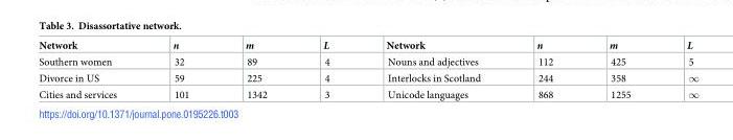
<table><thead><tr><td>Network</td><td>n</td><td>m</td><td>L</td><td>Network</td><td>n</td><td>m</td><td>L</td></tr></thead><tbody><tr><td>Southern women</td><td>32</td><td>89</td><td>4</td><td>Nouns and adjectives</td><td>112</td><td>425</td><td>5</td></tr><tr><td>Divorce in US</td><td>59</td><td>225</td><td>4</td><td>Interlocks in Scotland</td><td>244</td><td>358</td><td></td></tr><tr><td>Cities and services</td><td>101</td><td>1342</td><td>3</td><td>Unicode languages</td><td>868</td><td>1255</td><td></td></tr></tbody></table>